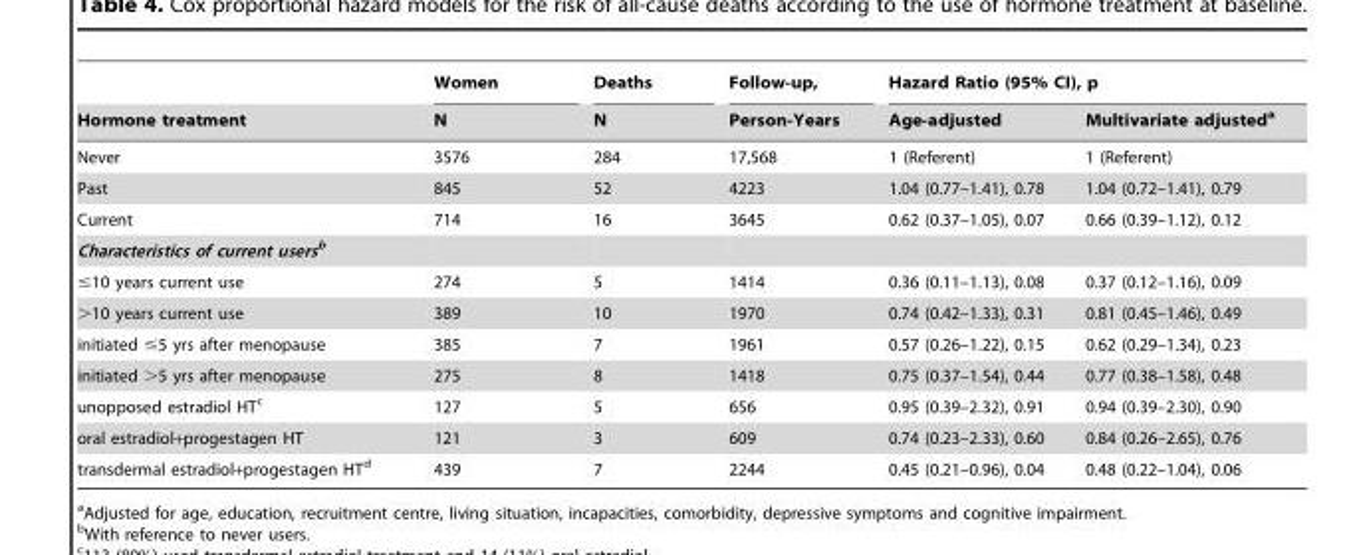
<table><thead><tr><td rowspan="2">Hormone treatment</td><td rowspan="2">Women N</td><td rowspan="2">Deaths N</td><td rowspan="2">Follow-up, Person-Years</td><td colspan="2">Hazard Ratio (95% CI), p</td></tr><tr><td>Age-adjusted</td><td>Multivariate adjusted<sup>a</sup></td></tr></thead><tbody><tr><td>Never</td><td>3576</td><td>284</td><td>17,568</td><td>1 (Referent)</td><td>1 (Referent)</td></tr><tr><td>Past</td><td>845</td><td>52</td><td>4223</td><td>1.04 (0.77–1.41), 0.78</td><td>1.04 (0.72–1.41), 0.79</td></tr><tr><td>Current</td><td>714</td><td>16</td><td>3645</td><td>0.62 (0.37–1.05), 0.07</td><td>0.66 (0.39–1.12), 0.12</td></tr><tr><td colspan="6">Characteristics of current usersb</td></tr><tr><td>≤10 years current use</td><td>274</td><td>5</td><td>1414</td><td>0.36 (0.11–1.13), 0.08</td><td>0.37 (0.12–1.16), 0.09</td></tr><tr><td>&gt;10 years current use</td><td>389</td><td>10</td><td>1970</td><td>0.74 (0.42–1.33), 0.31</td><td>0.81 (0.45–1.46), 0.49</td></tr><tr><td>initiated ≤5 yrs after menopause</td><td>385</td><td>7</td><td>1961</td><td>0.57 (0.26–1.22), 0.15</td><td>0.62 (0.29–1.34), 0.23</td></tr><tr><td>initiated &gt;5 yrs after menopause</td><td>275</td><td>8</td><td>1418</td><td>0.75 (0.37–1.54), 0.44</td><td>0.77 (0.38–1.58), 0.48</td></tr><tr><td>unopposed estradiol HT<sup>c</sup></td><td>127</td><td>5</td><td>656</td><td>0.95 (0.39–2.32), 0.91</td><td>0.94 (0.39–2.30), 0.90</td></tr><tr><td>oral estradiol+progestagen HT</td><td>121</td><td>3</td><td>609</td><td>0.74 (0.23–2.33), 0.60</td><td>0.84 (0.26–2.65), 0.76</td></tr><tr><td>transdermal estradiol+progestagen HT<sup>d</sup></td><td>439</td><td>7</td><td>2244</td><td>0.45 (0.21–0.96), 0.04</td><td>0.48 (0.22–1.04), 0.06</td></tr></tbody></table>